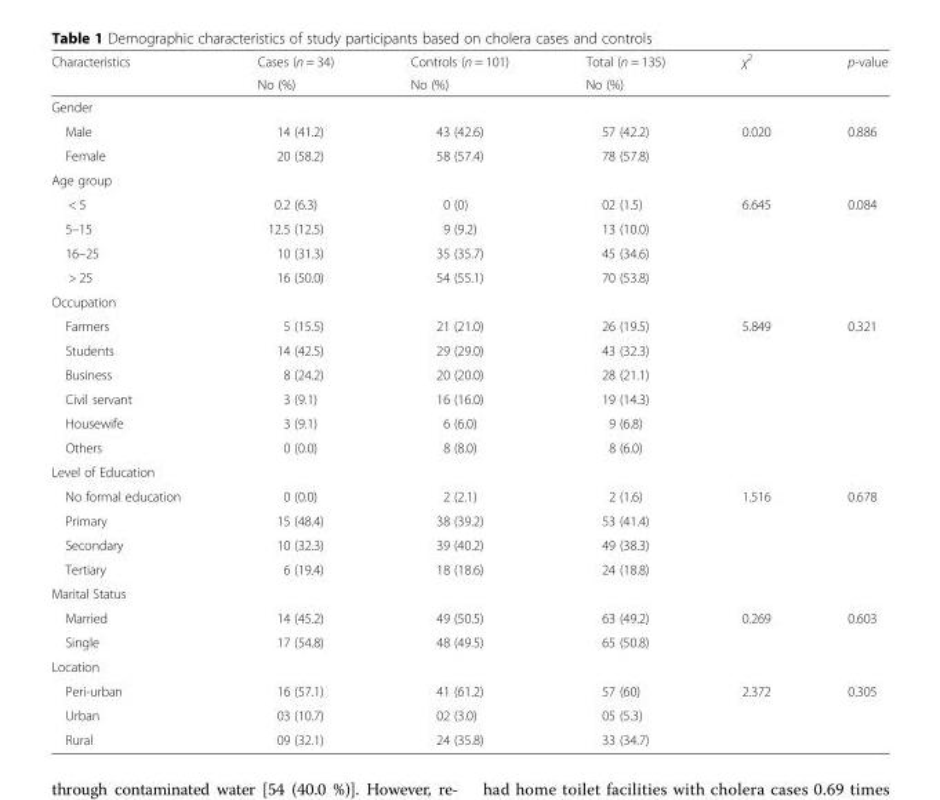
<table><thead><tr><td rowspan="2">Characteristics</td><td rowspan="2">Cases (n = 34) No (%)</td><td rowspan="2">Controls (n = 101) No (%)</td><td rowspan="2">Total (n = 135) No (%)</td><td rowspan="2">χ<sup>2</sup></td><td rowspan="2">p-value</td></tr><tr></tr></thead><tbody><tr><td colspan="6">Gender</td></tr><tr><td>Male</td><td>14 (41.2)</td><td>43 (42.6)</td><td>57 (42.2)</td><td rowspan="2">0.020</td><td rowspan="2">0.886</td></tr><tr><td>Female</td><td>20 (58.2)</td><td>58 (57.4)</td><td>78 (57.8)</td></tr><tr><td colspan="6">Age group</td></tr><tr><td>&lt; 5</td><td>0.2 (6.3)</td><td>0 (0)</td><td>02 (1.5)</td><td rowspan="4">6.645</td><td rowspan="4">0.084</td></tr><tr><td>5–15</td><td>12.5 (12.5)</td><td>9 (9.2)</td><td>13 (10.0)</td></tr><tr><td>16–25</td><td>10 (31.3)</td><td>35 (35.7)</td><td>45 (34.6)</td></tr><tr><td>&gt; 25</td><td>16 (50.0)</td><td>54 (55.1)</td><td>70 (53.8)</td></tr><tr><td colspan="6">Occupation</td></tr><tr><td>Farmers</td><td>5 (15.5)</td><td>21 (21.0)</td><td>26 (19.5)</td><td rowspan="6">5.849</td><td rowspan="6">0.321</td></tr><tr><td>Students</td><td>14 (42.5)</td><td>29 (29.0)</td><td>43 (32.3)</td></tr><tr><td>Business</td><td>8 (24.2)</td><td>20 (20.0)</td><td>28 (21.1)</td></tr><tr><td>Civil servant</td><td>3 (9.1)</td><td>16 (16.0)</td><td>19 (14.3)</td></tr><tr><td>Housewife</td><td>3 (9.1)</td><td>6 (6.0)</td><td>9 (6.8)</td></tr><tr><td>Others</td><td>0 (0.0)</td><td>8 (8.0)</td><td>8 (6.0)</td></tr><tr><td colspan="6">Level of Education</td></tr><tr><td>No formal education</td><td>0 (0.0)</td><td>2 (2.1)</td><td>2 (1.6)</td><td rowspan="4">1.516</td><td rowspan="4">0.678</td></tr><tr><td>Primary</td><td>15 (48.4)</td><td>38 (39.2)</td><td>53 (41.4)</td></tr><tr><td>Secondary</td><td>10 (32.3)</td><td>39 (40.2)</td><td>49 (38.3)</td></tr><tr><td>Tertiary</td><td>6 (19.4)</td><td>18 (18.6)</td><td>24 (18.8)</td></tr><tr><td colspan="6">Marital Status</td></tr><tr><td>Married</td><td>14 (45.2)</td><td>49 (50.5)</td><td>63 (49.2)</td><td rowspan="2">0.269</td><td rowspan="2">0.603</td></tr><tr><td>Single</td><td>17 (54.8)</td><td>48 (49.5)</td><td>65 (50.8)</td></tr><tr><td colspan="6">Location</td></tr><tr><td>Peri-urban</td><td>16 (57.1)</td><td>41 (61.2)</td><td>57 (60)</td><td rowspan="3">2.372</td><td rowspan="3">0.305</td></tr><tr><td>Urban</td><td>03 (10.7)</td><td>02 (3.0)</td><td>05 (5.3)</td></tr><tr><td>Rural</td><td>09 (32.1)</td><td>24 (35.8)</td><td>33 (34.7)</td></tr></tbody></table>